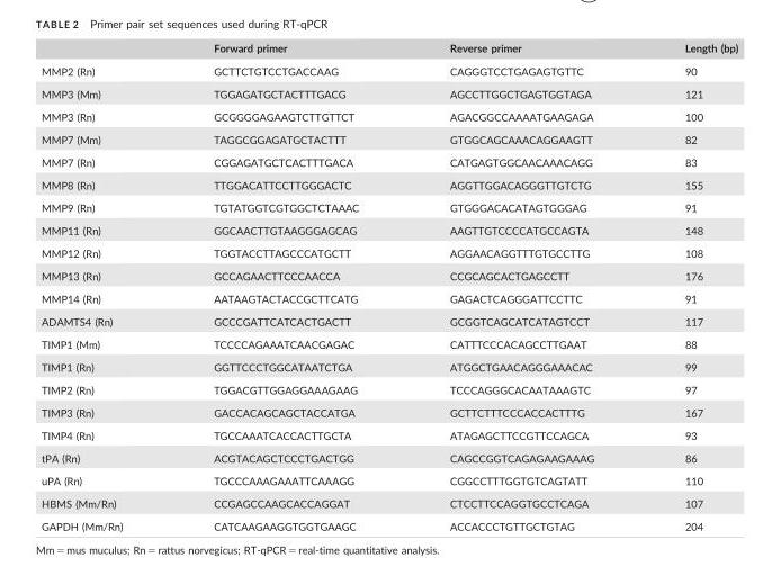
<table><thead><tr><td></td><td>Forward primer</td><td>Reverse primer</td><td>Length (bp)</td></tr></thead><tbody><tr><td>MMP2 (Rn)</td><td>GCTTCTGTCCTGACCAAG</td><td>CAGGGTCCTGAGAGTGTTC</td><td>90</td></tr><tr><td>MMP3 (Mm)</td><td>TGGAGATGCTACTTTGACG</td><td>AGCCTTGGCTGAGTGGTAGA</td><td>121</td></tr><tr><td>MMP3 (Rn)</td><td>GCGGGGAGAAGTCTTGTTCT</td><td>AGACGGCCAAAATGAAGAGA</td><td>100</td></tr><tr><td>MMP7 (Mm)</td><td>TAGGCGGAGATGCTACTTT</td><td>GTGGCAGCAAACAGGAAGTT</td><td>82</td></tr><tr><td>MMP7 (Rn)</td><td>CGGAGATGCTCACTTTGACA</td><td>CATGAGTGGCAACAAACAGG</td><td>83</td></tr><tr><td>MMP8 (Rn)</td><td>TTGGACATTCCTTGGGACTC</td><td>AGGTTGGACAGGGTTGTCTG</td><td>155</td></tr><tr><td>MMP9 (Rn)</td><td>TGTATGGTCGTGGCTCTAAAC</td><td>GTGGGACACATAGTGGGAG</td><td>91</td></tr><tr><td>MMP11 (Rn)</td><td>GGCAACTTGTAAGGGAGCAG</td><td>AAGTTGTCCCCATGCCAGTA</td><td>148</td></tr><tr><td>MMP12 (Rn)</td><td>TGGTACCTTAGCCCATGCTT</td><td>AGGAACAGGTTTGTGCCTTG</td><td>108</td></tr><tr><td>MMP13 (Rn)</td><td>GCCAGAACTTCCCAACCA</td><td>CCGCAGCACTGAGCCTT</td><td>176</td></tr><tr><td>MMP14 (Rn)</td><td>AATAAGTACTACCGCTTCATG</td><td>GAGACTCAGGGATTCCTTC</td><td>91</td></tr><tr><td>ADAMTS4 (Rn)</td><td>GCCCGATTCATCACTGACTT</td><td>GCGGTCAGCATCATAGTCCT</td><td>117</td></tr><tr><td>TIMP1 (Mm)</td><td>TCCCCAGAAATCAACGAGAC</td><td>CATTTCCCACAGCCTTGAAT</td><td>88</td></tr><tr><td>TIMP1 (Rn)</td><td>GGTTCCCTGGCATAATCTGA</td><td>ATGGCTGAACAGGGAAACAC</td><td>99</td></tr><tr><td>TIMP2 (Rn)</td><td>TGGACGTTGGAGGAAAGAAG</td><td>TCCCAGGGCACAATAAAGTC</td><td>97</td></tr><tr><td>TIMP3 (Rn)</td><td>GACCACAGCAGCTACCATGA</td><td>GCTTCTTTCCCACCACTTTG</td><td>167</td></tr><tr><td>TIMP4 (Rn)</td><td>TGCCAAATCACCACTTGCTA</td><td>ATAGAGCTTCCGTTCCAGCA</td><td>93</td></tr><tr><td>tPA (Rn)</td><td>ACGTACAGCTCCCTGACTGG</td><td>CAGCCGGTCAGAGAAGAAAG</td><td>86</td></tr><tr><td>uPA (Rn)</td><td>TGCCCAAAGAAATTCAAAGG</td><td>CGGCCTTTGGTGTCAGTATT</td><td>110</td></tr><tr><td>HBMS (Mm/Rn)</td><td>CCGAGCCAAGCACCAGGAT</td><td>CTCCTTCCAGGTGCCTCAGA</td><td>107</td></tr><tr><td>GAPDH (Mm/Rn)</td><td>CATCAAGAAGGTGGTGAAGC</td><td>ACCACCCTGTTGCTGTAG</td><td>204</td></tr></tbody></table>